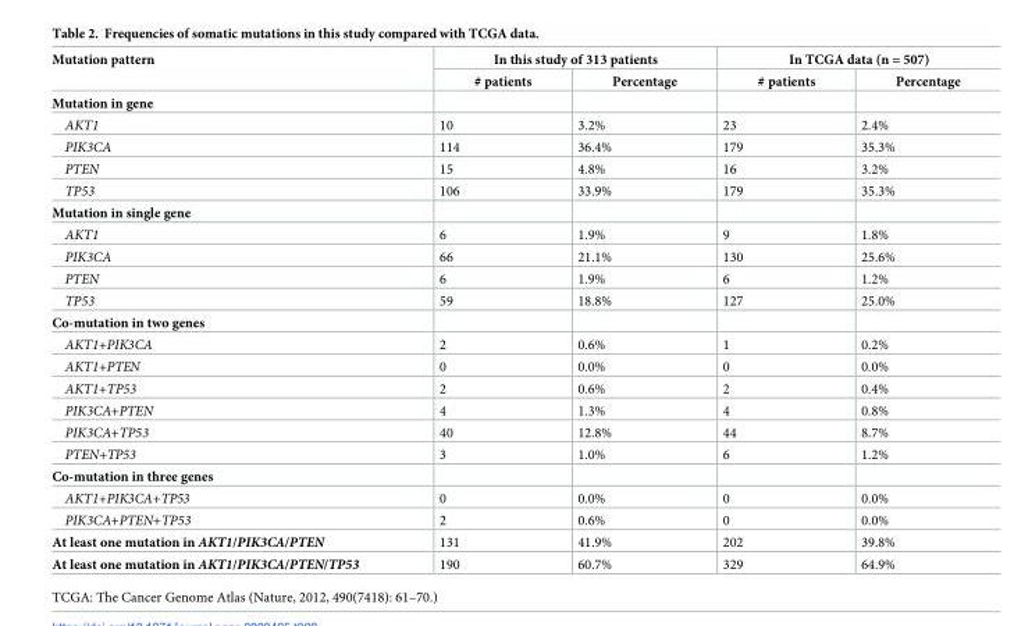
<table><thead><tr><td rowspan="2">Mutation pattern</td><td colspan="2">In this study of 313 patients</td><td colspan="2">In TCGA data (n = 507)</td></tr><tr><td># patients</td><td>Percentage</td><td># patients</td><td>Percentage</td></tr></thead><tbody><tr><td colspan="5">Mutation in gene</td></tr><tr><td>AKT1</td><td>10</td><td>3.2%</td><td>23</td><td>2.4%</td></tr><tr><td>PIK3CA</td><td>114</td><td>36.4%</td><td>179</td><td>35.3%</td></tr><tr><td>PTEN</td><td>15</td><td>4.8%</td><td>16</td><td>3.2%</td></tr><tr><td>TP53</td><td>106</td><td>33.9%</td><td>179</td><td>35.3%</td></tr><tr><td colspan="5">Mutation in single gene</td></tr><tr><td>AKT1</td><td>6</td><td>1.9%</td><td>9</td><td>1.8%</td></tr><tr><td>PIK3CA</td><td>66</td><td>21.1%</td><td>130</td><td>25.6%</td></tr><tr><td>PTEN</td><td>6</td><td>1.9%</td><td>6</td><td>1.2%</td></tr><tr><td>TP53</td><td>59</td><td>18.8%</td><td>127</td><td>25.0%</td></tr><tr><td colspan="5">Co-mutation in two genes</td></tr><tr><td>AKT1+PIK3CA</td><td>2</td><td>0.6%</td><td>1</td><td>0.2%</td></tr><tr><td>AKT1+PTEN</td><td>0</td><td>0.0%</td><td>0</td><td>0.0%</td></tr><tr><td>AKT1+TP53</td><td>2</td><td>0.6%</td><td>2</td><td>0.4%</td></tr><tr><td>PIK3CA+PTEN</td><td>4</td><td>1.3%</td><td>4</td><td>0.8%</td></tr><tr><td>PIK3CA+TP53</td><td>40</td><td>12.8%</td><td>44</td><td>8.7%</td></tr><tr><td>PTEN+TP53</td><td>3</td><td>1.0%</td><td>6</td><td>1.2%</td></tr><tr><td colspan="5">Co-mutation in three genes</td></tr><tr><td>AKT1+PIK3CA+TP53</td><td>0</td><td>0.0%</td><td>0</td><td>0.0%</td></tr><tr><td>PIK3CA+PTEN+TP53</td><td>2</td><td>0.6%</td><td>0</td><td>0.0%</td></tr><tr><td>At least one mutation in AKT1/PIK3CA/PTEN</td><td>131</td><td>41.9%</td><td>202</td><td>39.8%</td></tr><tr><td>At least one mutation in AKT1/PIK3CA/PTEN/TP53</td><td>190</td><td>60.7%</td><td>329</td><td>64.9%</td></tr></tbody></table>